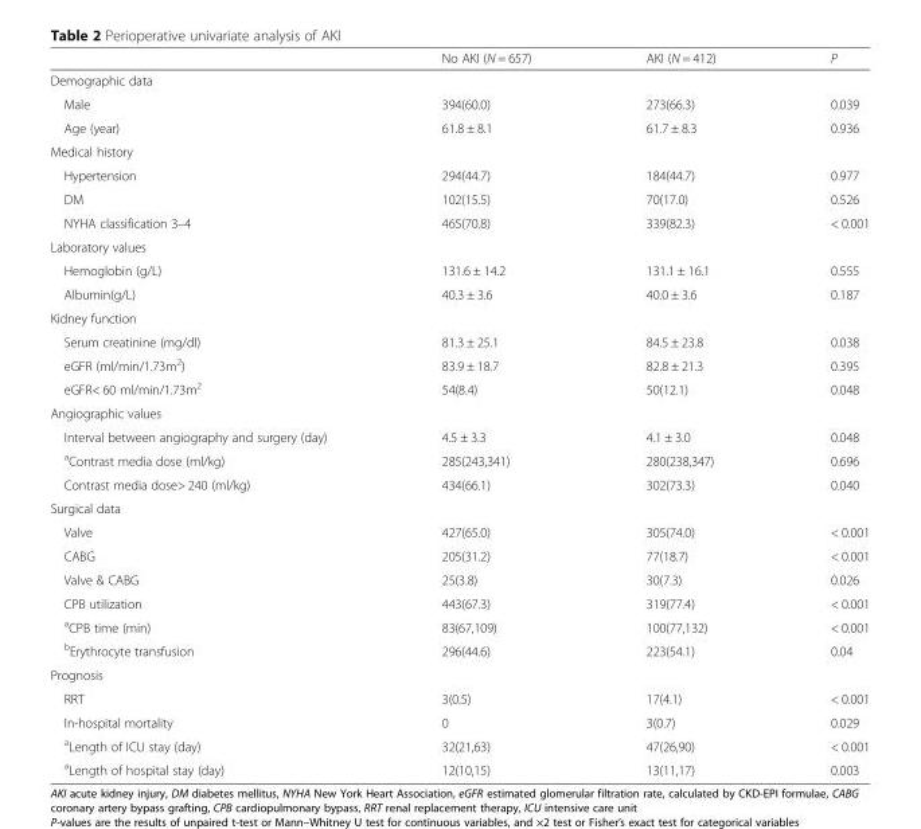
<table><thead><tr><td></td><td>No AKI (N = 657)</td><td>AKI (N = 412)</td><td>P</td></tr></thead><tbody><tr><td colspan="4">Demographic data</td></tr><tr><td>Male</td><td>394(60.0)</td><td>273(66.3)</td><td>0.039</td></tr><tr><td>Age (year)</td><td>61.8 ± 8.1</td><td>61.7 ± 8.3</td><td>0.936</td></tr><tr><td colspan="4">Medical history</td></tr><tr><td>Hypertension</td><td>294(44.7)</td><td>184(44.7)</td><td>0.977</td></tr><tr><td>DM</td><td>102(15.5)</td><td>70(17.0)</td><td>0.526</td></tr><tr><td>NYHA classification 3–4</td><td>465(70.8)</td><td>339(82.3)</td><td>&lt; 0.001</td></tr><tr><td colspan="4">Laboratory values</td></tr><tr><td>Hemoglobin (g/L)</td><td>131.6 ± 14.2</td><td>131.1 ± 16.1</td><td>0.555</td></tr><tr><td>Albumin(g/L)</td><td>40.3 ± 3.6</td><td>40.0 ± 3.6</td><td>0.187</td></tr><tr><td colspan="4">Kidney function</td></tr><tr><td>Serum creatinine (mg/dl)</td><td>81.3 ± 25.1</td><td>84.5 ± 23.8</td><td>0.038</td></tr><tr><td>eGFR (ml/min/1.73m<sup>2</sup>)</td><td>83.9 ± 18.7</td><td>82.8 ± 21.3</td><td>0.395</td></tr><tr><td>eGFR&lt; 60 ml/min/1.73m<sup>2</sup></td><td>54(8.4)</td><td>50(12.1)</td><td>0.048</td></tr><tr><td colspan="4">Angiographic values</td></tr><tr><td>Interval between angiography and surgery (day)</td><td>4.5 ± 3.3</td><td>4.1 ± 3.0</td><td>0.048</td></tr><tr><td><sup>a</sup>Contrast media dose (ml/kg)</td><td>285(243,341)</td><td>280(238,347)</td><td>0.696</td></tr><tr><td>Contrast media dose&gt; 240 (ml/kg)</td><td>434(66.1)</td><td>302(73.3)</td><td>0.040</td></tr><tr><td colspan="4">Surgical data</td></tr><tr><td>Valve</td><td>427(65.0)</td><td>305(74.0)</td><td>&lt; 0.001</td></tr><tr><td>CABG</td><td>205(31.2)</td><td>77(18.7)</td><td>&lt; 0.001</td></tr><tr><td>Valve &amp; CABG</td><td>25(3.8)</td><td>30(7.3)</td><td>0.026</td></tr><tr><td>CPB utilization</td><td>443(67.3)</td><td>319(77.4)</td><td>&lt; 0.001</td></tr><tr><td><sup>a</sup>CPB time (min)</td><td>83(67,109)</td><td>100(77,132)</td><td>&lt; 0.001</td></tr><tr><td><sup>b</sup>Erythrocyte transfusion</td><td>296(44.6)</td><td>223(54.1)</td><td>0.04</td></tr><tr><td colspan="4">Prognosis</td></tr><tr><td>RRT</td><td>3(0.5)</td><td>17(4.1)</td><td>&lt; 0.001</td></tr><tr><td>In-hospital mortality</td><td>0</td><td>3(0.7)</td><td>0.029</td></tr><tr><td><sup>a</sup>Length of ICU stay (day)</td><td>32(21,63)</td><td>47(26,90)</td><td>&lt; 0.001</td></tr><tr><td><sup>a</sup>Length of hospital stay (day)</td><td>12(10,15)</td><td>13(11,17)</td><td>0.003</td></tr></tbody></table>